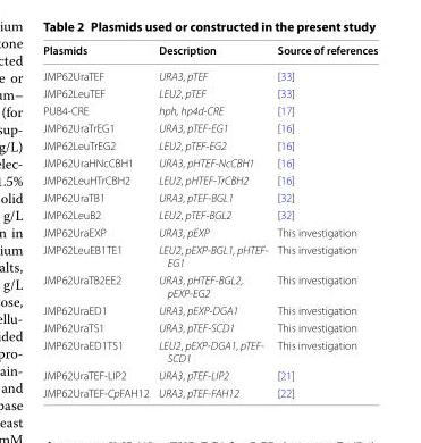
<table><thead><tr><td>Plasmids</td><td>Description</td><td>Source of references</td></tr></thead><tbody><tr><td>JMP62UraTEF</td><td>URA3, pTEF</td><td>[33]</td></tr><tr><td>JMP62LeuTEF</td><td>LEU2, pTEF</td><td>[33]</td></tr><tr><td>PUB4‑CRE</td><td>hph, hp4d‑CRE</td><td>[17]</td></tr><tr><td>JMP62UraTrEG1</td><td>URA3, pTEF‑EG1</td><td>[16]</td></tr><tr><td>JMP62LeuTrEG2</td><td>LEU2, pTEF‑EG2</td><td>[16]</td></tr><tr><td>JMP62UraHNcCBH1</td><td>URA3, pHTEF‑NcCBH1</td><td>[16]</td></tr><tr><td>JMP62LeuHTrCBH2</td><td>LEU2, pHTEF‑TrCBH2</td><td>[16]</td></tr><tr><td>JMP62UraTB1</td><td>URA3, pTEF‑BGL1</td><td>[32]</td></tr><tr><td>JMP62LeuB2</td><td>LEU2, pTEF‑BGL2</td><td>[32]</td></tr><tr><td>JMP62UraEXP</td><td>URA3, pEXP</td><td>This investigation</td></tr><tr><td>JMP62LeuEB1TE1</td><td>LEU2, pEXP‑BGL1, pHTEF‑ EG1</td><td>This investigation</td></tr><tr><td>JMP62UraTB2EE2</td><td>URA3, pHTEF‑BGL2, pEXP‑EG2</td><td>This investigation</td></tr><tr><td>JMP62UraED1</td><td>URA3, pEXP‑DGA1</td><td>This investigation</td></tr><tr><td>JMP62UraTS1</td><td>URA3, pTEF‑SCD1</td><td>This investigation</td></tr><tr><td>JMP62UraED1TS1</td><td>LEU2, pEXP‑DGA1, pTEF‑ SCD1</td><td>This investigation</td></tr><tr><td>JMP62UraTEF‑LIP2</td><td>URA3, pTEF‑LIP2</td><td>[21]</td></tr><tr><td>JMP62UraTEF‑CpFAH12</td><td>URA3, pTEF‑FAH12</td><td>[22]</td></tr></tbody></table>